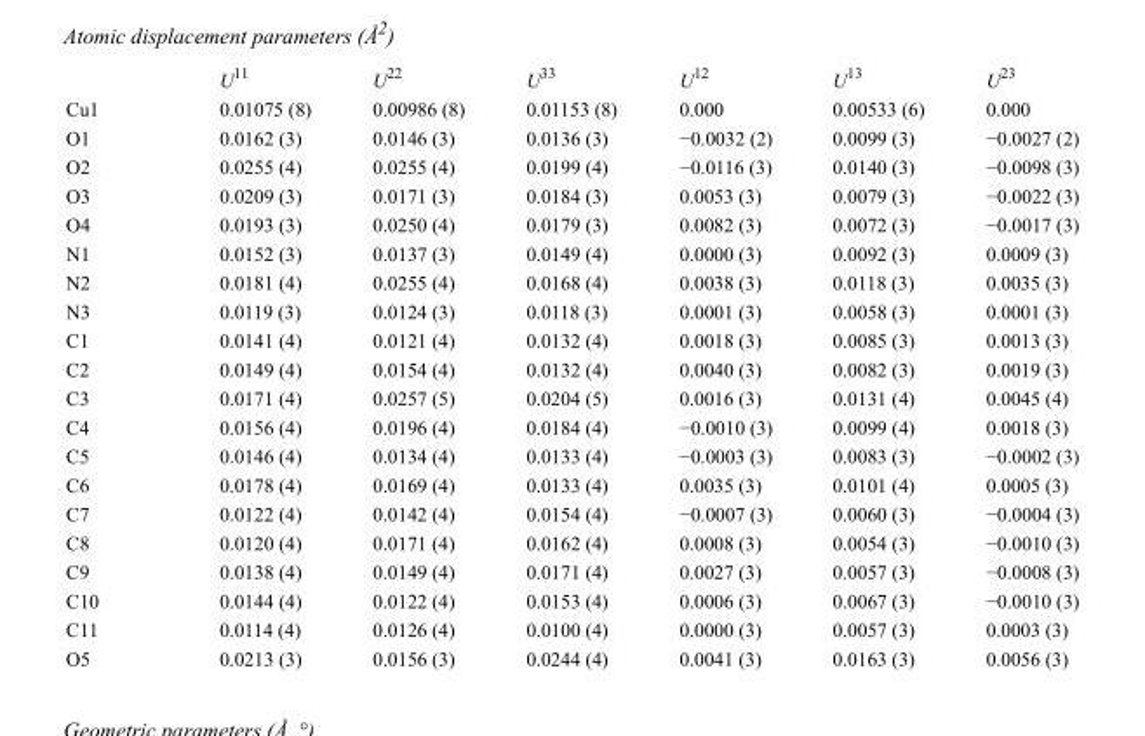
<table><thead><tr><td></td><td>U<sup>11</sup></td><td>U<sup>22</sup></td><td>U<sup>33</sup></td><td>U<sup>12</sup></td><td>U<sup>13</sup></td><td>U<sup>23</sup></td></tr></thead><tbody><tr><td>Cu1</td><td>0.01075 (8)</td><td>0.00986 (8)</td><td>0.01153 (8)</td><td>0.000</td><td>0.00533 (6)</td><td>0.000</td></tr><tr><td>O1</td><td>0.0162 (3)</td><td>0.0146 (3)</td><td>0.0136 (3)</td><td>−0.0032 (2)</td><td>0.0099 (3)</td><td>−0.0027 (2)</td></tr><tr><td>O2</td><td>0.0255 (4)</td><td>0.0255 (4)</td><td>0.0199 (4)</td><td>−0.0116 (3)</td><td>0.0140 (3)</td><td>−0.0098 (3)</td></tr><tr><td>O3</td><td>0.0209 (3)</td><td>0.0171 (3)</td><td>0.0184 (3)</td><td>0.0053 (3)</td><td>0.0079 (3)</td><td>−0.0022 (3)</td></tr><tr><td>O4</td><td>0.0193 (3)</td><td>0.0250 (4)</td><td>0.0179 (3)</td><td>0.0082 (3)</td><td>0.0072 (3)</td><td>−0.0017 (3)</td></tr><tr><td>N1</td><td>0.0152 (3)</td><td>0.0137 (3)</td><td>0.0149 (4)</td><td>0.0000 (3)</td><td>0.0092 (3)</td><td>0.0009 (3)</td></tr><tr><td>N2</td><td>0.0181 (4)</td><td>0.0255 (4)</td><td>0.0168 (4)</td><td>0.0038 (3)</td><td>0.0118 (3)</td><td>0.0035 (3)</td></tr><tr><td>N3</td><td>0.0119 (3)</td><td>0.0124 (3)</td><td>0.0118 (3)</td><td>0.0001 (3)</td><td>0.0058 (3)</td><td>0.0001 (3)</td></tr><tr><td>C1</td><td>0.0141 (4)</td><td>0.0121 (4)</td><td>0.0132 (4)</td><td>0.0018 (3)</td><td>0.0085 (3)</td><td>0.0013 (3)</td></tr><tr><td>C2</td><td>0.0149 (4)</td><td>0.0154 (4)</td><td>0.0132 (4)</td><td>0.0040 (3)</td><td>0.0082 (3)</td><td>0.0019 (3)</td></tr><tr><td>C3</td><td>0.0171 (4)</td><td>0.0257 (5)</td><td>0.0204 (5)</td><td>0.0016 (3)</td><td>0.0131 (4)</td><td>0.0045 (4)</td></tr><tr><td>C4</td><td>0.0156 (4)</td><td>0.0196 (4)</td><td>0.0184 (4)</td><td>−0.0010 (3)</td><td>0.0099 (4)</td><td>0.0018 (3)</td></tr><tr><td>C5</td><td>0.0146 (4)</td><td>0.0134 (4)</td><td>0.0133 (4)</td><td>−0.0003 (3)</td><td>0.0083 (3)</td><td>−0.0002 (3)</td></tr><tr><td>C6</td><td>0.0178 (4)</td><td>0.0169 (4)</td><td>0.0133 (4)</td><td>0.0035 (3)</td><td>0.0101 (4)</td><td>0.0005 (3)</td></tr><tr><td>C7</td><td>0.0122 (4)</td><td>0.0142 (4)</td><td>0.0154 (4)</td><td>−0.0007 (3)</td><td>0.0060 (3)</td><td>−0.0004 (3)</td></tr><tr><td>C8</td><td>0.0120 (4)</td><td>0.0171 (4)</td><td>0.0162 (4)</td><td>0.0008 (3)</td><td>0.0054 (3)</td><td>−0.0010 (3)</td></tr><tr><td>C9</td><td>0.0138 (4)</td><td>0.0149 (4)</td><td>0.0171 (4)</td><td>0.0027 (3)</td><td>0.0057 (3)</td><td>−0.0008 (3)</td></tr><tr><td>C10</td><td>0.0144 (4)</td><td>0.0122 (4)</td><td>0.0153 (4)</td><td>0.0006 (3)</td><td>0.0067 (3)</td><td>−0.0010 (3)</td></tr><tr><td>C11</td><td>0.0114 (4)</td><td>0.0126 (4)</td><td>0.0100 (4)</td><td>0.0000 (3)</td><td>0.0057 (3)</td><td>0.0003 (3)</td></tr><tr><td>O5</td><td>0.0213 (3)</td><td>0.0156 (3)</td><td>0.0244 (4)</td><td>0.0041 (3)</td><td>0.0163 (3)</td><td>0.0056 (3)</td></tr></tbody></table>